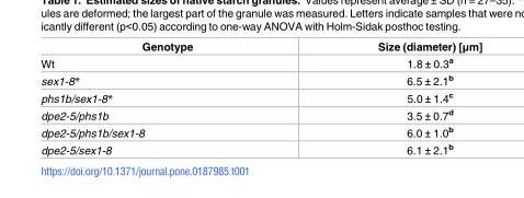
<table><thead><tr><td>Genotype</td><td>Size (diameter) [μm]</td></tr></thead><tbody><tr><td>Wt</td><td>1.8 ± 0.3<sup>a</sup></td></tr><tr><td>sex1-8*</td><td>6.5 ± 2.1<sup>b</sup></td></tr><tr><td>phs1b/sex1-8*</td><td>5.0 ± 1.4<sup>c</sup></td></tr><tr><td>dpe2-5/phs1b</td><td>3.5 ± 0.7<sup>d</sup></td></tr><tr><td>dpe2-5/phs1b/sex1-8</td><td>6.0 ± 1.0<sup>b</sup></td></tr><tr><td>dpe2-5/sex1-8</td><td>6.1 ± 2.1<sup>b</sup></td></tr></tbody></table>